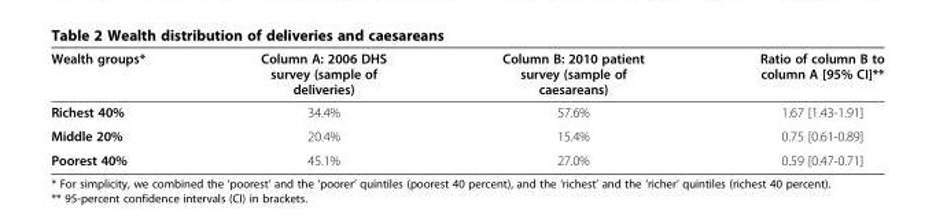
<table><thead><tr><td>Wealth groups*</td><td>Column A: 2006 DHS survey (sample of deliveries)</td><td>Column B: 2010 patient survey (sample of caesareans)</td><td>Ratio of column B to column A [95% CI]**</td></tr></thead><tbody><tr><td>Richest 40%</td><td>34.4%</td><td>57.6%</td><td>1.67 [1.43-1.91]</td></tr><tr><td>Middle 20%</td><td>20.4%</td><td>15.4%</td><td>0.75 [0.61-0.89]</td></tr><tr><td>Poorest 40%</td><td>45.1%</td><td>27.0%</td><td>0.59 [0.47-0.71]</td></tr></tbody></table>